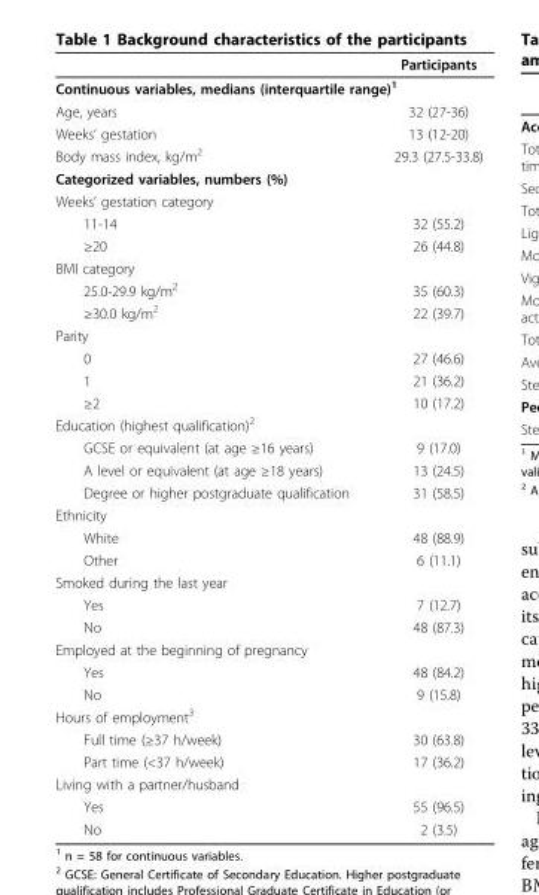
<table><thead><tr><td></td><td>Participants</td></tr></thead><tbody><tr><td colspan="2">Continuous variables, medians (interquartile range)<sup>1</sup></td></tr><tr><td>Age, years</td><td>32 (27-36)</td></tr><tr><td>Weeks’ gestation</td><td>13 (12-20)</td></tr><tr><td>Body mass index, kg/m<sup>2</sup></td><td>29.3 (27.5-33.8)</td></tr><tr><td colspan="2">Categorized variables, numbers (%)</td></tr><tr><td colspan="2">Weeks’ gestation category</td></tr><tr><td>11-14</td><td>32 (55.2)</td></tr><tr><td>≥20</td><td>26 (44.8)</td></tr><tr><td colspan="2">BMI category</td></tr><tr><td>25.0-29.9 kg/m<sup>2</sup></td><td>35 (60.3)</td></tr><tr><td>≥30.0 kg/m<sup>2</sup></td><td>22 (39.7)</td></tr><tr><td colspan="2">Parity</td></tr><tr><td>0</td><td>27 (46.6)</td></tr><tr><td>1</td><td>21 (36.2)</td></tr><tr><td>≥2</td><td>10 (17.2)</td></tr><tr><td colspan="2">Education (highest qualification)<sup>2</sup></td></tr><tr><td>GCSE or equivalent (at age ≥16 years)</td><td>9 (17.0)</td></tr><tr><td>A level or equivalent (at age ≥18 years)</td><td>13 (24.5)</td></tr><tr><td>Degree or higher postgraduate qualification</td><td>31 (58.5)</td></tr><tr><td colspan="2">Ethnicity</td></tr><tr><td>White</td><td>48 (88.9)</td></tr><tr><td>Other</td><td>6 (11.1)</td></tr><tr><td colspan="2">Smoked during the last year</td></tr><tr><td>Yes</td><td>7 (12.7)</td></tr><tr><td>No</td><td>48 (87.3)</td></tr><tr><td colspan="2">Employed at the beginning of pregnancy</td></tr><tr><td>Yes</td><td>48 (84.2)</td></tr><tr><td>No</td><td>9 (15.8)</td></tr><tr><td colspan="2">Hours of employment<sup>3</sup></td></tr><tr><td>Full time (≥37 h/week)</td><td>30 (63.8)</td></tr><tr><td>Part time (&lt;37 h/week)</td><td>17 (36.2)</td></tr><tr><td colspan="2">Living with a partner/husband</td></tr><tr><td>Yes</td><td>55 (96.5)</td></tr><tr><td>No</td><td>2 (3.5)</td></tr></tbody></table>